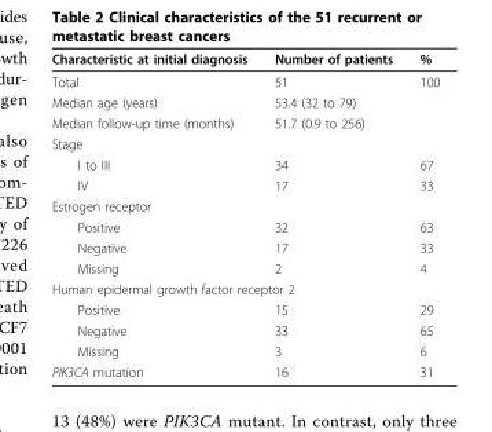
<table><thead><tr><td>Characteristic at initial diagnosis</td><td>Number of patients</td><td>%</td></tr></thead><tbody><tr><td>Total</td><td>51</td><td>100</td></tr><tr><td>Median age (years)</td><td>53.4 (32 to 79)</td><td></td></tr><tr><td>Median follow-up time (months)</td><td>51.7 (0.9 to 256)</td><td></td></tr><tr><td colspan="3">Stage</td></tr><tr><td>I to III</td><td>34</td><td>67</td></tr><tr><td>IV</td><td>17</td><td>33</td></tr><tr><td colspan="3">Estrogen receptor</td></tr><tr><td>Positive</td><td>32</td><td>63</td></tr><tr><td>Negative</td><td>17</td><td>33</td></tr><tr><td>Missing</td><td>2</td><td>4</td></tr><tr><td colspan="3">Human epidermal growth factor receptor 2</td></tr><tr><td>Positive</td><td>15</td><td>29</td></tr><tr><td>Negative</td><td>33</td><td>65</td></tr><tr><td>Missing</td><td>3</td><td>6</td></tr><tr><td>PIK3CA mutation</td><td>16</td><td>31</td></tr></tbody></table>